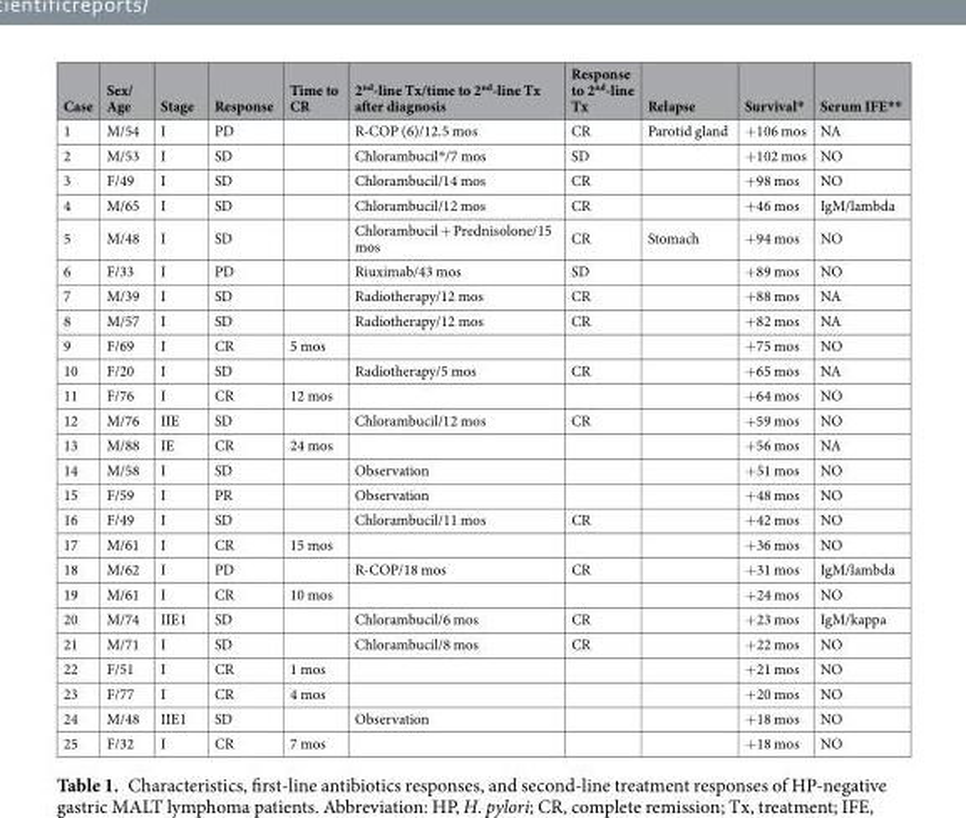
<table><thead><tr><td>Case</td><td>Sex/ Age</td><td>Stage</td><td>Response</td><td>Time to CR</td><td>2<sup>nd</sup>-line Tx/time to 2<sup>nd</sup>-line Tx after diagnosis</td><td>Response to 2<sup>nd</sup>-line Tx</td><td>Relapse</td><td>Survival*</td><td>Serum IFE**</td></tr></thead><tbody><tr><td>1</td><td>M/54</td><td>I</td><td>PD</td><td></td><td>R-COP (6)/12.5 mos</td><td>CR</td><td>Parotid gland</td><td>+106 mos</td><td>NA</td></tr><tr><td>2</td><td>M/53</td><td>I</td><td>SD</td><td></td><td>Chlorambucil*/7 mos</td><td>SD</td><td></td><td>+102 mos</td><td>NO</td></tr><tr><td>3</td><td>F/49</td><td>I</td><td>SD</td><td></td><td>Chlorambucil/14 mos</td><td>CR</td><td></td><td>+98 mos</td><td>NO</td></tr><tr><td>4</td><td>M/65</td><td>I</td><td>SD</td><td></td><td>Chlorambucil/12 mos</td><td>CR</td><td></td><td>+46 mos</td><td>IgM/lambda</td></tr><tr><td>5</td><td>M/48</td><td>I</td><td>SD</td><td></td><td>Chlorambucil + Prednisolone/15 mos</td><td>CR</td><td>Stomach</td><td>+94 mos</td><td>NO</td></tr><tr><td>6</td><td>F/33</td><td>I</td><td>PD</td><td></td><td>Riuximab/43 mos</td><td>SD</td><td></td><td>+89 mos</td><td>NO</td></tr><tr><td>7</td><td>M/39</td><td>I</td><td>SD</td><td></td><td>Radiotherapy/12 mos</td><td>CR</td><td></td><td>+88 mos</td><td>NA</td></tr><tr><td>8</td><td>M/57</td><td>I</td><td>SD</td><td></td><td>Radiotherapy/12 mos</td><td>CR</td><td></td><td>+82 mos</td><td>NA</td></tr><tr><td>9</td><td>F/69</td><td>I</td><td>CR</td><td>5 mos</td><td></td><td></td><td></td><td>+75 mos</td><td>NO</td></tr><tr><td>10</td><td>F/20</td><td>I</td><td>SD</td><td></td><td>Radiotherapy/5 mos</td><td>CR</td><td></td><td>+65 mos</td><td>NA</td></tr><tr><td>11</td><td>F/76</td><td>I</td><td>CR</td><td>12 mos</td><td></td><td></td><td></td><td>+64 mos</td><td>NO</td></tr><tr><td>12</td><td>M/76</td><td>IIE</td><td>SD</td><td></td><td>Chlorambucil/12 mos</td><td>CR</td><td></td><td>+59 mos</td><td>NO</td></tr><tr><td>13</td><td>M/88</td><td>IE</td><td>CR</td><td>24 mos</td><td></td><td></td><td></td><td>+56 mos</td><td>NA</td></tr><tr><td>14</td><td>M/58</td><td>I</td><td>SD</td><td></td><td>Observation</td><td></td><td></td><td>+51 mos</td><td>NO</td></tr><tr><td>15</td><td>F/59</td><td>I</td><td>PR</td><td></td><td>Observation</td><td></td><td></td><td>+48 mos</td><td>NO</td></tr><tr><td>16</td><td>F/49</td><td>I</td><td>SD</td><td></td><td>Chlorambucil/11 mos</td><td>CR</td><td></td><td>+42 mos</td><td>NO</td></tr><tr><td>17</td><td>M/61</td><td>I</td><td>CR</td><td>15 mos</td><td></td><td></td><td></td><td>+36 mos</td><td>NO</td></tr><tr><td>18</td><td>M/62</td><td>I</td><td>PD</td><td></td><td>R-COP/18 mos</td><td>CR</td><td></td><td>+31 mos</td><td>IgM/lambda</td></tr><tr><td>19</td><td>M/61</td><td>I</td><td>CR</td><td>10 mos</td><td></td><td></td><td></td><td>+24 mos</td><td>NO</td></tr><tr><td>20</td><td>M/74</td><td>IIE1</td><td>SD</td><td></td><td>Chlorambucil/6 mos</td><td>CR</td><td></td><td>+23 mos</td><td>IgM/kappa</td></tr><tr><td>21</td><td>M/71</td><td>I</td><td>SD</td><td></td><td>Chlorambucil/8 mos</td><td>CR</td><td></td><td>+22 mos</td><td>NO</td></tr><tr><td>22</td><td>F/51</td><td>I</td><td>CR</td><td>1 mos</td><td></td><td></td><td></td><td>+21 mos</td><td>NO</td></tr><tr><td>23</td><td>F/77</td><td>I</td><td>CR</td><td>4 mos</td><td></td><td></td><td></td><td>+20 mos</td><td>NO</td></tr><tr><td>24</td><td>M/48</td><td>IIE1</td><td>SD</td><td></td><td>Observation</td><td></td><td></td><td>+18 mos</td><td>NO</td></tr><tr><td>25</td><td>F/32</td><td>I</td><td>CR</td><td>7 mos</td><td></td><td></td><td></td><td>+18 mos</td><td>NO</td></tr></tbody></table>